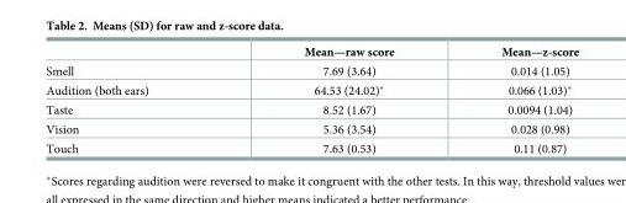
<table><thead><tr><td></td><td>Mean—raw score</td><td>Mean—z-score</td></tr></thead><tbody><tr><td>Smell</td><td>7.69 (3.64)</td><td>0.014 (1.05)</td></tr><tr><td>Audition (both ears)</td><td>64.53 (24.02)*</td><td>0.066 (1.03)*</td></tr><tr><td>Taste</td><td>8.52 (1.67)</td><td>0.0094 (1.04)</td></tr><tr><td>Vision</td><td>5.36 (3.54)</td><td>0.028 (0.98)</td></tr><tr><td>Touch</td><td>7.63 (0.53)</td><td>0.11 (0.87)</td></tr></tbody></table>